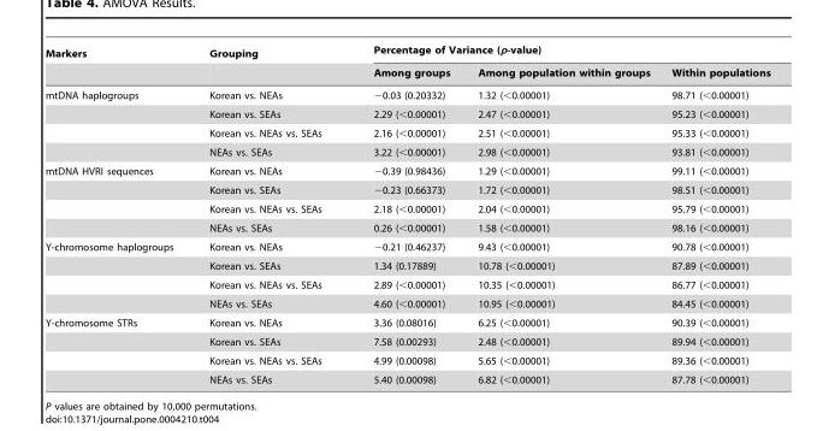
<table><thead><tr><td rowspan="2">Markers</td><td rowspan="2">Grouping</td><td colspan="3">Percentage of Variance (p-value)</td></tr><tr><td>Among groups</td><td>Among population within groups</td><td>Within populations</td></tr></thead><tbody><tr><td rowspan="4">mtDNA haplogroups</td><td>Korean vs. NEAs</td><td>−0.03 (0.20332)</td><td>1.32 (&lt;0.00001)</td><td>98.71 (&lt;0.00001)</td></tr><tr><td>Korean vs. SEAs</td><td>2.29 (&lt;0.00001)</td><td>2.47 (&lt;0.00001)</td><td>95.23 (&lt;0.00001)</td></tr><tr><td>Korean vs. NEAs vs. SEAs</td><td>2.16 (&lt;0.00001)</td><td>2.51 (&lt;0.00001)</td><td>95.33 (&lt;0.00001)</td></tr><tr><td>NEAs vs. SEAs</td><td>3.22 (&lt;0.00001)</td><td>2.98 (&lt;0.00001)</td><td>93.81 (&lt;0.00001)</td></tr><tr><td rowspan="4">mtDNA HVRI sequences</td><td>Korean vs. NEAs</td><td>−0.39 (0.98436)</td><td>1.29 (&lt;0.00001)</td><td>99.11 (&lt;0.00001)</td></tr><tr><td>Korean vs. SEAs</td><td>−0.23 (0.66373)</td><td>1.72 (&lt;0.00001)</td><td>98.51 (&lt;0.00001)</td></tr><tr><td>Korean vs. NEAs vs. SEAs</td><td>2.18 (&lt;0.00001)</td><td>2.04 (&lt;0.00001)</td><td>95.79 (&lt;0.00001)</td></tr><tr><td>NEAs vs. SEAs</td><td>0.26 (&lt;0.00001)</td><td>1.58 (&lt;0.00001)</td><td>98.16 (&lt;0.00001)</td></tr><tr><td rowspan="4">Y-chromosome haplogroups</td><td>Korean vs. NEAs</td><td>−0.21 (0.46237)</td><td>9.43 (&lt;0.00001)</td><td>90.78 (&lt;0.00001)</td></tr><tr><td>Korean vs. SEAs</td><td>1.34 (0.17889)</td><td>10.78 (&lt;0.00001)</td><td>87.89 (&lt;0.00001)</td></tr><tr><td>Korean vs. NEAs vs. SEAs</td><td>2.89 (&lt;0.00001)</td><td>10.35 (&lt;0.00001)</td><td>86.77 (&lt;0.00001)</td></tr><tr><td>NEAs vs. SEAs</td><td>4.60 (&lt;0.00001)</td><td>10.95 (&lt;0.00001)</td><td>84.45 (&lt;0.00001)</td></tr><tr><td rowspan="4">Y-chromosome STRs</td><td>Korean vs. NEAs</td><td>3.36 (0.08016)</td><td>6.25 (&lt;0.00001)</td><td>90.39 (&lt;0.00001)</td></tr><tr><td>Korean vs. SEAs</td><td>7.58 (0.00293)</td><td>2.48 (&lt;0.00001)</td><td>89.94 (&lt;0.00001)</td></tr><tr><td>Korean vs. NEAs vs. SEAs</td><td>4.99 (0.00098)</td><td>5.65 (&lt;0.00001)</td><td>89.36 (&lt;0.00001)</td></tr><tr><td>NEAs vs. SEAs</td><td>5.40 (0.00098)</td><td>6.82 (&lt;0.00001)</td><td>87.78 (&lt;0.00001)</td></tr></tbody></table>